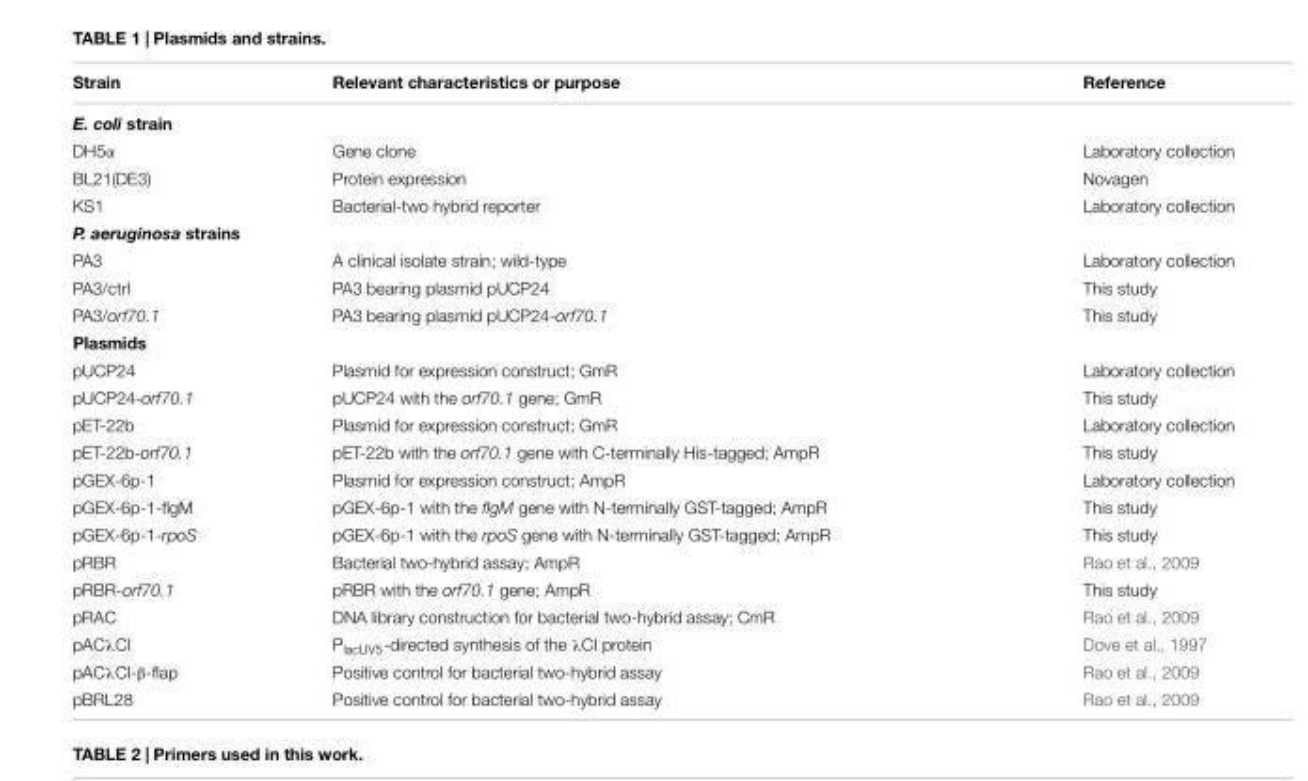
<table><thead><tr><td>Strain</td><td>Relevant characteristics or purpose</td><td>Reference</td></tr></thead><tbody><tr><td colspan="3">E. coli strain</td></tr><tr><td>DH5α</td><td>Gene clone</td><td>Laboratory collection</td></tr><tr><td>BL21(DE3)</td><td>Protein expression</td><td>Novagen</td></tr><tr><td>KS1</td><td>Bacterial-two hybrid reporter</td><td>Laboratory collection</td></tr><tr><td colspan="3">P. aeruginosa strains</td></tr><tr><td>PA3</td><td>A clinical isolate strain; wild-type</td><td>Laboratory collection</td></tr><tr><td>PA3/ctrl</td><td>PA3 bearing plasmid pUCP24</td><td>This study</td></tr><tr><td>PA3/orf70.1</td><td>PA3 bearing plasmid pUCP24-orf70.1</td><td>This study</td></tr><tr><td colspan="3">Plasmids</td></tr><tr><td>pUCP24</td><td>Plasmid for expression construct; GmR</td><td>Laboratory collection</td></tr><tr><td>pUCP24-orf70.1</td><td>pUCP24 with the orf70.1 gene; GmR</td><td>This study</td></tr><tr><td>pET-22b</td><td>Plasmid for expression construct; GmR</td><td>Laboratory collection</td></tr><tr><td>pET-22b-orf70.1</td><td>pET-22b with the orf70.1 gene with C-terminally His-tagged; AmpR</td><td>This study</td></tr><tr><td>pGEX-6p-1</td><td>Plasmid for expression construct; AmpR</td><td>Laboratory collection</td></tr><tr><td>pGEX-6p-1-flgM</td><td>pGEX-6p-1 with the flgM gene with N-terminally GST-tagged; AmpR</td><td>This study</td></tr><tr><td>pGEX-6p-1-rpoS</td><td>pGEX-6p-1 with the rpoS gene with N-terminally GST-tagged; AmpR</td><td>This study</td></tr><tr><td>pRBR</td><td>Bacterial two-hybrid assay; AmpR</td><td>Rao et al., 2009</td></tr><tr><td>pRBR-orf70.1</td><td>pRBR with the orf70.1 gene; AmpR</td><td>This study</td></tr><tr><td>pRAC</td><td>DNA library construction for bacterial two-hybrid assay; CmR</td><td>Rao et al., 2009</td></tr><tr><td>pACλCI</td><td>P<sub>lacUV5</sub>-directed synthesis of the λCI protein</td><td>Dove et al., 1997</td></tr><tr><td>pACλCI-β-flap</td><td>Positive control for bacterial two-hybrid assay</td><td>Rao et al., 2009</td></tr><tr><td>pBRL28</td><td>Positive control for bacterial two-hybrid assay</td><td>Rao et al., 2009</td></tr></tbody></table>